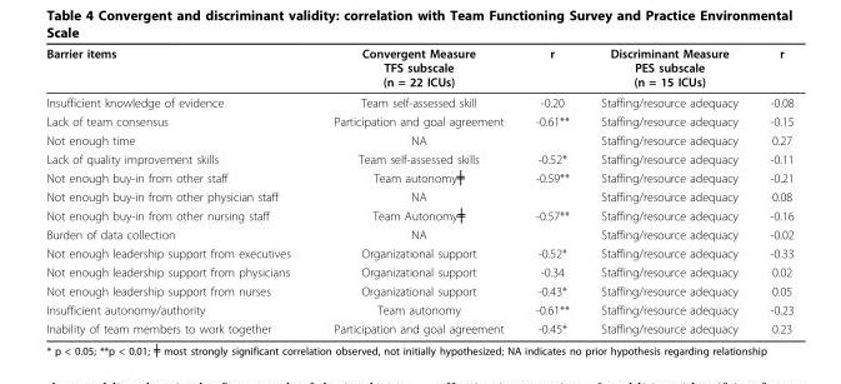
<table><thead><tr><td>Barrier items</td><td>Convergent Measure TFS subscale (n = 22 ICUs)</td><td>r</td><td>Discriminant Measure PES subscale (n = 15 ICUs)</td><td>r</td></tr></thead><tbody><tr><td>Insufficient knowledge of evidence</td><td>Team self-assessed skill</td><td>-0.20</td><td>Staffing/resource adequacy</td><td>-0.08</td></tr><tr><td>Lack of team consensus</td><td>Participation and goal agreement</td><td>-0.61**</td><td>Staffing/resource adequacy</td><td>-0.15</td></tr><tr><td>Not enough time</td><td>NA</td><td></td><td>Staffing/resource adequacy</td><td>0.27</td></tr><tr><td>Lack of quality improvement skills</td><td>Team self-assessed skills</td><td>-0.52*</td><td>Staffing/resource adequacy</td><td>-0.11</td></tr><tr><td>Not enough buy-in from other staff</td><td>Team autonomy╪</td><td>-0.59**</td><td>Staffing/resource adequacy</td><td>-0.21</td></tr><tr><td>Not enough buy-in from other physician staff</td><td>NA</td><td></td><td>Staffing/resource adequacy</td><td>0.08</td></tr><tr><td>Not enough buy-in from other nursing staff</td><td>Team Autonomy╪</td><td>-0.57**</td><td>Staffing/resource adequacy</td><td>-0.16</td></tr><tr><td>Burden of data collection</td><td>NA</td><td></td><td>Staffing/resource adequacy</td><td>-0.02</td></tr><tr><td>Not enough leadership support from executives</td><td>Organizational support</td><td>-0.52*</td><td>Staffing/resource adequacy</td><td>-0.33</td></tr><tr><td>Not enough leadership support from physicians</td><td>Organizational support</td><td>-0.34</td><td>Staffing/resource adequacy</td><td>0.02</td></tr><tr><td>Not enough leadership support from nurses</td><td>Organizational support</td><td>-0.43*</td><td>Staffing/resource adequacy</td><td>0.05</td></tr><tr><td>Insufficient autonomy/authority</td><td>Team autonomy</td><td>-0.61**</td><td>Staffing/resource adequacy</td><td>-0.23</td></tr><tr><td>Inability of team members to work together</td><td>Participation and goal agreement</td><td>-0.45*</td><td>Staffing/resource adequacy</td><td>0.23</td></tr></tbody></table>